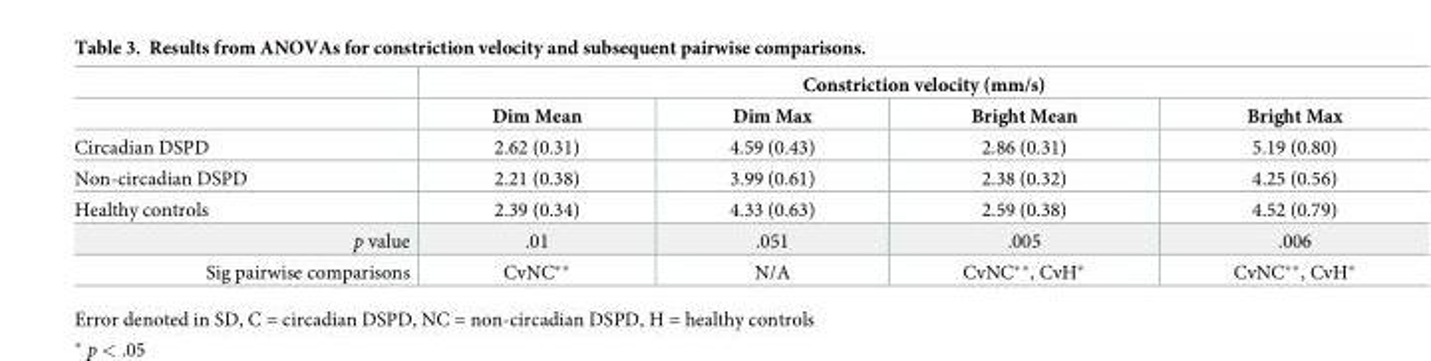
<table><thead><tr><td rowspan="2"></td><td colspan="4">Constriction velocity (mm/s)</td></tr><tr><td>Dim Mean</td><td>Dim Max</td><td>Bright Mean</td><td>Bright Max</td></tr></thead><tbody><tr><td>Circadian DSPD</td><td>2.62 (0.31)</td><td>4.59 (0.43)</td><td>2.86 (0.31)</td><td>5.19 (0.80)</td></tr><tr><td>Non-circadian DSPD</td><td>2.21 (0.38)</td><td>3.99 (0.61)</td><td>2.38 (0.32)</td><td>4.25 (0.56)</td></tr><tr><td>Healthy controls</td><td>2.39 (0.34)</td><td>4.33 (0.63)</td><td>2.59 (0.38)</td><td>4.52 (0.79)</td></tr><tr><td>p value</td><td>.01</td><td>.051</td><td>.005</td><td>.006</td></tr><tr><td>Sig pairwise comparisons</td><td>CvNC**</td><td>N/A</td><td>CvNC**, CvH*</td><td>CvNC**, CvH*</td></tr></tbody></table>